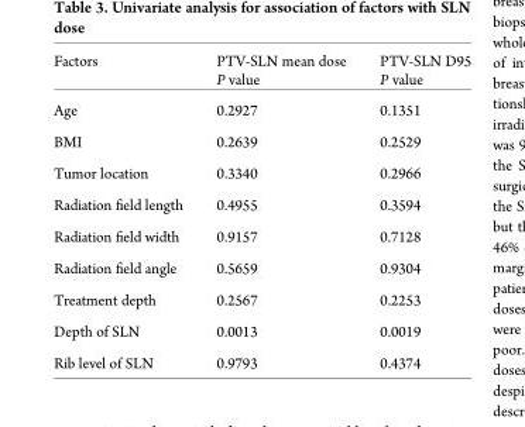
<table><thead><tr><td rowspan="2">Factors</td><td rowspan="2">PTV-SLN mean dose P value</td><td rowspan="2">PTV-SLN D95 P value</td></tr><tr></tr></thead><tbody><tr><td>Age</td><td>0.2927</td><td>0.1351</td></tr><tr><td>BMI</td><td>0.2639</td><td>0.2529</td></tr><tr><td>Tumor location</td><td>0.3340</td><td>0.2966</td></tr><tr><td>Radiation field length</td><td>0.4955</td><td>0.3594</td></tr><tr><td>Radiation field width</td><td>0.9157</td><td>0.7128</td></tr><tr><td>Radiation field angle</td><td>0.5659</td><td>0.9304</td></tr><tr><td>Treatment depth</td><td>0.2567</td><td>0.2253</td></tr><tr><td>Depth of SLN</td><td>0.0013</td><td>0.0019</td></tr><tr><td>Rib level of SLN</td><td>0.9793</td><td>0.4374</td></tr></tbody></table>